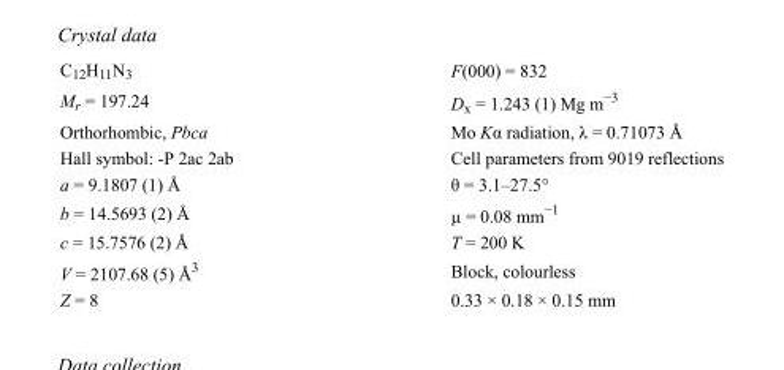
<table><tbody><tr><td>C<sub>12</sub>H<sub>11</sub>N<sub>3</sub></td><td>F(000) = 832</td></tr><tr><td>M<sub>r</sub> = 197.24</td><td>D<sub>x</sub> = 1.243 (1) Mg m<sup>−3</sup></td></tr><tr><td>Orthorhombic, Pbca</td><td>Mo Kα radiation, λ = 0.71073 Å</td></tr><tr><td>Hall symbol: -P 2ac 2ab</td><td>Cell parameters from 9019 reflections</td></tr><tr><td>a = 9.1807 (1) Å</td><td>θ = 3.1–27.5°</td></tr><tr><td>b = 14.5693 (2) Å</td><td>µ = 0.08 mm<sup>−1</sup></td></tr><tr><td>c = 15.7576 (2) Å</td><td>T = 200 K</td></tr><tr><td>V = 2107.68 (5) Å<sup>3</sup></td><td>Block, colourless</td></tr><tr><td>Z = 8</td><td>0.33 × 0.18 × 0.15 mm</td></tr></tbody></table>